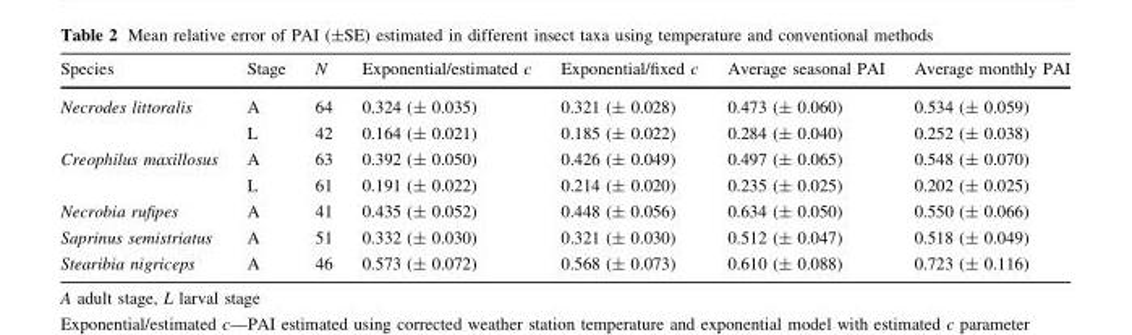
<table><thead><tr><td>Species</td><td>Stage</td><td>N</td><td>Exponential/estimated c</td><td>Exponential/fixed c</td><td>Average seasonal PAI</td><td>Average monthly PAI</td></tr></thead><tbody><tr><td rowspan="2">Necrodes littoralis</td><td>A</td><td>64</td><td>0.324 (± 0.035)</td><td>0.321 (± 0.028)</td><td>0.473 (± 0.060)</td><td>0.534 (± 0.059)</td></tr><tr><td>L</td><td>42</td><td>0.164 (± 0.021)</td><td>0.185 (± 0.022)</td><td>0.284 (± 0.040)</td><td>0.252 (± 0.038)</td></tr><tr><td rowspan="2">Creophilus maxillosus</td><td>A</td><td>63</td><td>0.392 (± 0.050)</td><td>0.426 (± 0.049)</td><td>0.497 (± 0.065)</td><td>0.548 (± 0.070)</td></tr><tr><td>L</td><td>61</td><td>0.191 (± 0.022)</td><td>0.214 (± 0.020)</td><td>0.235 (± 0.025)</td><td>0.202 (± 0.025)</td></tr><tr><td>Necrobia rufipes</td><td>A</td><td>41</td><td>0.435 (± 0.052)</td><td>0.448 (± 0.056)</td><td>0.634 (± 0.050)</td><td>0.550 (± 0.066)</td></tr><tr><td>Saprinus semistriatus</td><td>A</td><td>51</td><td>0.332 (± 0.030)</td><td>0.321 (± 0.030)</td><td>0.512 (± 0.047)</td><td>0.518 (± 0.049)</td></tr><tr><td>Stearibia nigriceps</td><td>A</td><td>46</td><td>0.573 (± 0.072)</td><td>0.568 (± 0.073)</td><td>0.610 (± 0.088)</td><td>0.723 (± 0.116)</td></tr></tbody></table>